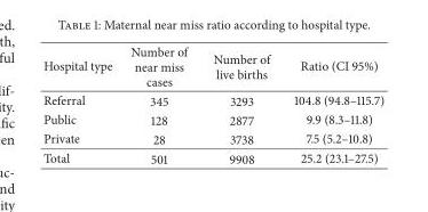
<table><thead><tr><td>Hospital type</td><td>Number of near miss cases</td><td>Number of live births</td><td>Ratio (CI 95%)</td></tr></thead><tbody><tr><td>Referral</td><td>345</td><td>3293</td><td>104.8 (94.8–115.7)</td></tr><tr><td>Public</td><td>128</td><td>2877</td><td>9.9 (8.3–11.8)</td></tr><tr><td>Private</td><td>28</td><td>3738</td><td>7.5 (5.2–10.8)</td></tr><tr><td>Total</td><td>501</td><td>9908</td><td>25.2 (23.1–27.5)</td></tr></tbody></table>